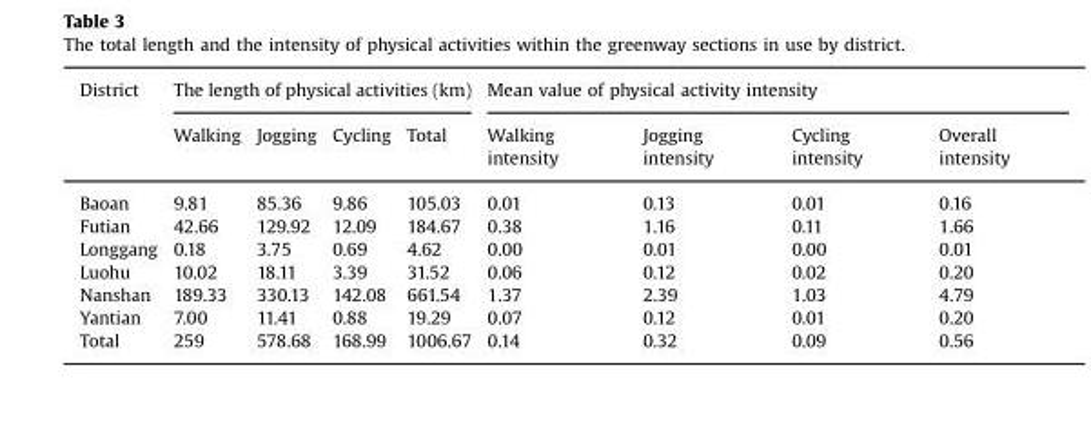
<table><thead><tr><td rowspan="2">District</td><td colspan="4">The length of physical activities (km)</td><td colspan="4">Mean value of physical activity intensity</td></tr><tr><td>Walking</td><td>Jogging</td><td>Cycling</td><td>Total</td><td>Walking intensity</td><td>Jogging intensity</td><td>Cycling intensity</td><td>Overall intensity</td></tr></thead><tbody><tr><td>Baoan</td><td>9.81</td><td>85.36</td><td>9.86</td><td>105.03</td><td>0.01</td><td>0.13</td><td>0.01</td><td>0.16</td></tr><tr><td>Futian</td><td>42.66</td><td>129.92</td><td>12.09</td><td>184.67</td><td>0.38</td><td>1.16</td><td>0.11</td><td>1.66</td></tr><tr><td>Longgang</td><td>0.18</td><td>3.75</td><td>0.69</td><td>4.62</td><td>0.00</td><td>0.01</td><td>0.00</td><td>0.01</td></tr><tr><td>Luohu</td><td>10.02</td><td>18.11</td><td>3.39</td><td>31.52</td><td>0.06</td><td>0.12</td><td>0.02</td><td>0.20</td></tr><tr><td>Nanshan</td><td>189.33</td><td>330.13</td><td>142.08</td><td>661.54</td><td>1.37</td><td>2.39</td><td>1.03</td><td>4.79</td></tr><tr><td>Yantian</td><td>7.00</td><td>11.41</td><td>0.88</td><td>19.29</td><td>0.07</td><td>0.12</td><td>0.01</td><td>0.20</td></tr><tr><td>Total</td><td>259</td><td>578.68</td><td>168.99</td><td>1006.67</td><td>0.14</td><td>0.32</td><td>0.09</td><td>0.56</td></tr></tbody></table>